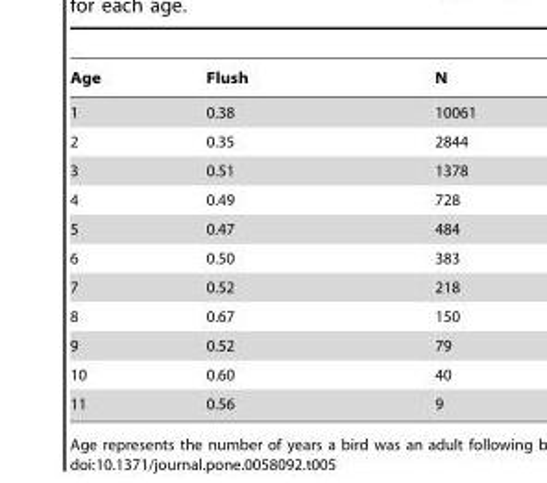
<table><thead><tr><td>Age</td><td>Flush</td><td>N</td></tr></thead><tbody><tr><td>1</td><td>0.38</td><td>10061</td></tr><tr><td>2</td><td>0.35</td><td>2844</td></tr><tr><td>3</td><td>0.51</td><td>1378</td></tr><tr><td>4</td><td>0.49</td><td>728</td></tr><tr><td>5</td><td>0.47</td><td>484</td></tr><tr><td>6</td><td>0.50</td><td>383</td></tr><tr><td>7</td><td>0.52</td><td>218</td></tr><tr><td>8</td><td>0.67</td><td>150</td></tr><tr><td>9</td><td>0.52</td><td>79</td></tr><tr><td>10</td><td>0.60</td><td>40</td></tr><tr><td>11</td><td>0.56</td><td>9</td></tr></tbody></table>